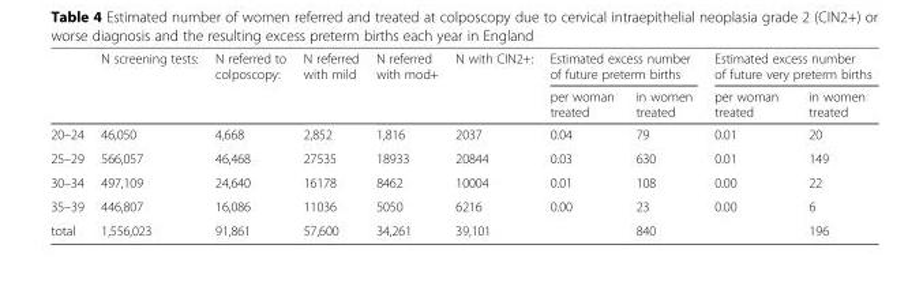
<table><thead><tr><td rowspan="2"></td><td rowspan="2">N screening tests:</td><td rowspan="2">N referred to colposcopy:</td><td rowspan="2">N referred with mild</td><td rowspan="2">N referred with mod+</td><td rowspan="2">N with CIN2+:</td><td colspan="2">Estimated excess number of future preterm births</td><td colspan="2">Estimated excess number of future very preterm births</td></tr><tr><td>per woman treated</td><td>in women treated</td><td>per woman treated</td><td>in women treated</td></tr></thead><tbody><tr><td>20–24</td><td>46,050</td><td>4,668</td><td>2,852</td><td>1,816</td><td>2037</td><td>0.04</td><td>79</td><td>0.01</td><td>20</td></tr><tr><td>25–29</td><td>566,057</td><td>46,468</td><td>27535</td><td>18933</td><td>20844</td><td>0.03</td><td>630</td><td>0.01</td><td>149</td></tr><tr><td>30–34</td><td>497,109</td><td>24,640</td><td>16178</td><td>8462</td><td>10004</td><td>0.01</td><td>108</td><td>0.00</td><td>22</td></tr><tr><td>35–39</td><td>446,807</td><td>16,086</td><td>11036</td><td>5050</td><td>6216</td><td>0.00</td><td>23</td><td>0.00</td><td>6</td></tr><tr><td>total</td><td>1,556,023</td><td>91,861</td><td>57,600</td><td>34,261</td><td>39,101</td><td></td><td>840</td><td></td><td>196</td></tr></tbody></table>